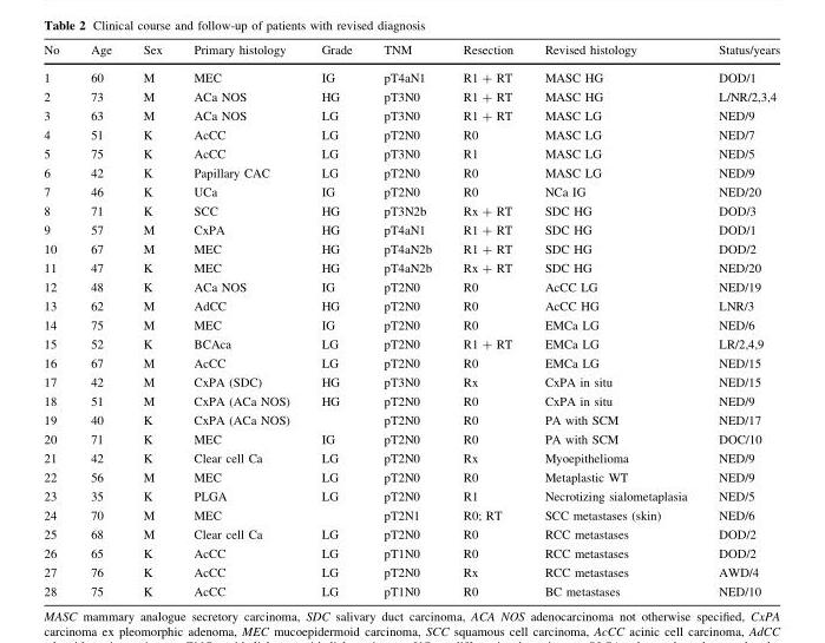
<table><thead><tr><td>No</td><td>Age</td><td>Sex</td><td>Primary histology</td><td>Grade</td><td>TNM</td><td>Resection</td><td>Revised histology</td><td>Status/years</td></tr></thead><tbody><tr><td>1</td><td>60</td><td>M</td><td>MEC</td><td>IG</td><td>pT4aN1</td><td>R1 + RT</td><td>MASC HG</td><td>DOD/1</td></tr><tr><td>2</td><td>73</td><td>M</td><td>ACa NOS</td><td>HG</td><td>pT3N0</td><td>R1 + RT</td><td>MASC HG</td><td>L/NR/2,3,4</td></tr><tr><td>3</td><td>63</td><td>M</td><td>ACa NOS</td><td>LG</td><td>pT3N0</td><td>R1 + RT</td><td>MASC LG</td><td>NED/9</td></tr><tr><td>4</td><td>51</td><td>K</td><td>AcCC</td><td>LG</td><td>pT2N0</td><td>R0</td><td>MASC LG</td><td>NED/7</td></tr><tr><td>5</td><td>75</td><td>K</td><td>AcCC</td><td>LG</td><td>pT3N0</td><td>R1</td><td>MASC LG</td><td>NED/5</td></tr><tr><td>6</td><td>42</td><td>K</td><td>Papillary CAC</td><td>LG</td><td>pT2N0</td><td>R0</td><td>MASC LG</td><td>NED/9</td></tr><tr><td>7</td><td>46</td><td>K</td><td>UCa</td><td>IG</td><td>pT2N0</td><td>R0</td><td>NCa IG</td><td>NED/20</td></tr><tr><td>8</td><td>71</td><td>K</td><td>SCC</td><td>HG</td><td>pT3N2b</td><td>Rx + RT</td><td>SDC HG</td><td>DOD/3</td></tr><tr><td>9</td><td>57</td><td>M</td><td>CxPA</td><td>HG</td><td>pT4aN1</td><td>R1 + RT</td><td>SDC HG</td><td>DOD/1</td></tr><tr><td>10</td><td>67</td><td>M</td><td>MEC</td><td>HG</td><td>pT4aN2b</td><td>R1 + RT</td><td>SDC HG</td><td>DOD/2</td></tr><tr><td>11</td><td>47</td><td>K</td><td>MEC</td><td>HG</td><td>pT4aN2b</td><td>Rx + RT</td><td>SDC HG</td><td>NED/20</td></tr><tr><td>12</td><td>48</td><td>K</td><td>ACa NOS</td><td>IG</td><td>pT2N0</td><td>R0</td><td>AcCC LG</td><td>NED/19</td></tr><tr><td>13</td><td>62</td><td>M</td><td>AdCC</td><td>HG</td><td>pT2N0</td><td>R0</td><td>AcCC HG</td><td>LNR/3</td></tr><tr><td>14</td><td>75</td><td>M</td><td>MEC</td><td>IG</td><td>pT2N0</td><td>R0</td><td>EMCa LG</td><td>NED/6</td></tr><tr><td>15</td><td>52</td><td>K</td><td>BCAca</td><td>LG</td><td>pT2N0</td><td>R1 + RT</td><td>EMCa LG</td><td>LR/2,4,9</td></tr><tr><td>16</td><td>67</td><td>M</td><td>AcCC</td><td>LG</td><td>pT2N0</td><td>R0</td><td>EMCa LG</td><td>NED/15</td></tr><tr><td>17</td><td>42</td><td>M</td><td>CxPA (SDC)</td><td>HG</td><td>pT3N0</td><td>Rx</td><td>CxPA in situ</td><td>NED/15</td></tr><tr><td>18</td><td>51</td><td>M</td><td>CxPA (ACa NOS)</td><td>HG</td><td>pT2N0</td><td>R0</td><td>CxPA in situ</td><td>NED/9</td></tr><tr><td>19</td><td>40</td><td>K</td><td>CxPA (ACa NOS)</td><td></td><td>pT2N0</td><td>R0</td><td>PA with SCM</td><td>NED/17</td></tr><tr><td>20</td><td>71</td><td>K</td><td>MEC</td><td>IG</td><td>pT2N0</td><td>R0</td><td>PA with SCM</td><td>DOC/10</td></tr><tr><td>21</td><td>42</td><td>K</td><td>Clear cell Ca</td><td>LG</td><td>pT2N0</td><td>Rx</td><td>Myoepithelioma</td><td>NED/9</td></tr><tr><td>22</td><td>56</td><td>M</td><td>MEC</td><td>LG</td><td>pT2N0</td><td>R0</td><td>Metaplastic WT</td><td>NED/9</td></tr><tr><td>23</td><td>35</td><td>K</td><td>PLGA</td><td>LG</td><td>pT2N0</td><td>R1</td><td>Necrotizing sialometaplasia</td><td>NED/5</td></tr><tr><td>24</td><td>70</td><td>M</td><td>MEC</td><td></td><td>pT2N1</td><td>R0; RT</td><td>SCC metastases (skin)</td><td>NED/6</td></tr><tr><td>25</td><td>68</td><td>M</td><td>Clear cell Ca</td><td>LG</td><td>pT2N0</td><td>R0</td><td>RCC metastases</td><td>DOD/2</td></tr><tr><td>26</td><td>65</td><td>K</td><td>AcCC</td><td>LG</td><td>pT1N0</td><td>R0</td><td>RCC metastases</td><td>DOD/2</td></tr><tr><td>27</td><td>76</td><td>K</td><td>AcCC</td><td>LG</td><td>pT2N0</td><td>Rx</td><td>RCC metastases</td><td>AWD/4</td></tr><tr><td>28</td><td>75</td><td>K</td><td>AcCC</td><td>LG</td><td>pT1N0</td><td>R0</td><td>BC metastases</td><td>NED/10</td></tr></tbody></table>